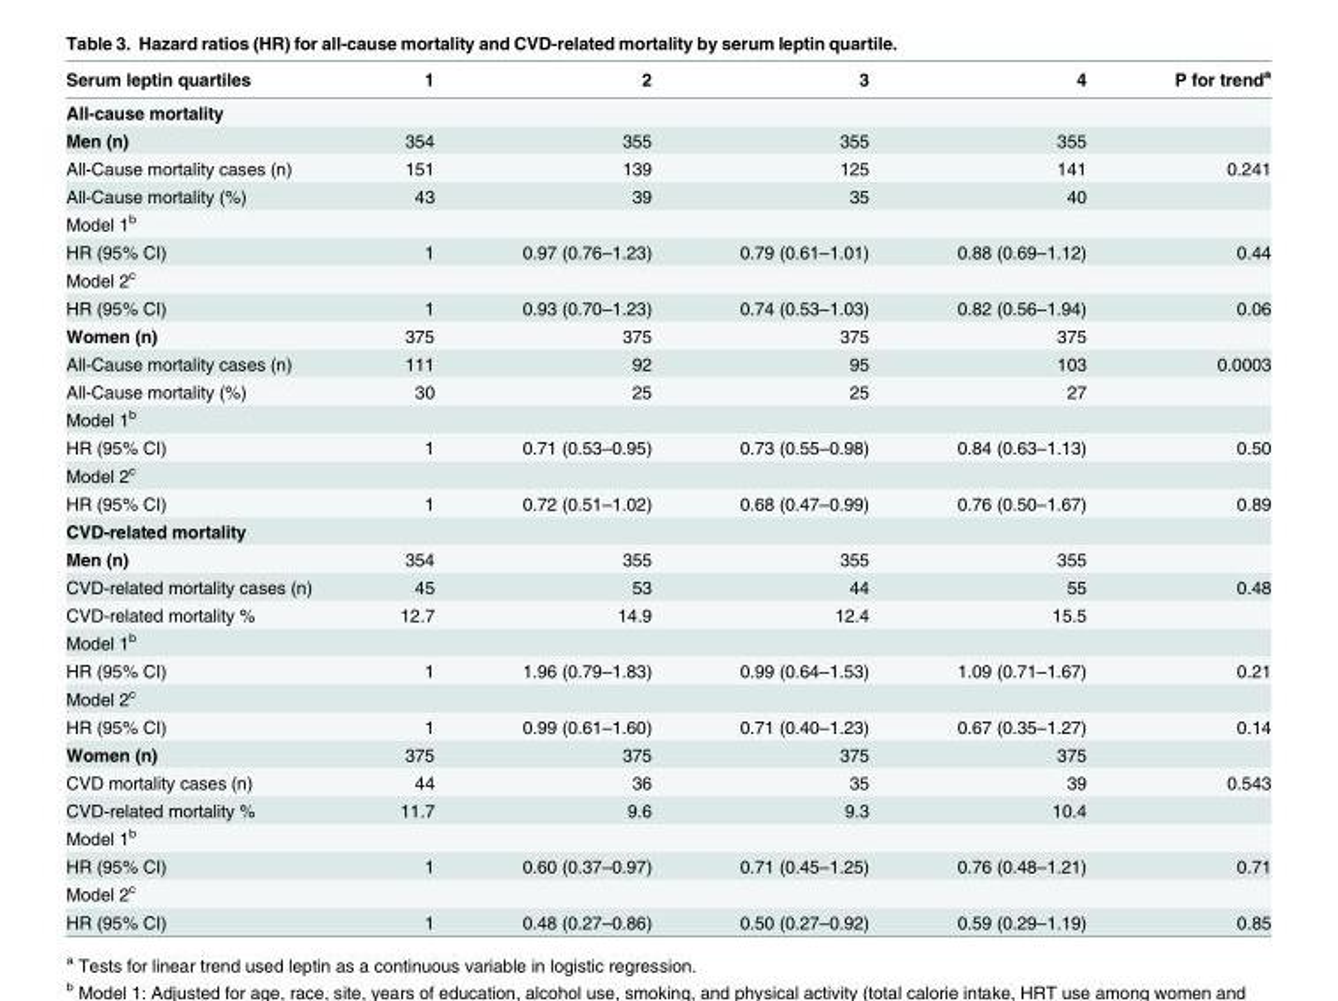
<table><thead><tr><td>Serum leptin quartiles</td><td>1</td><td>2</td><td>3</td><td>4</td><td>P for trend<sup>a</sup></td></tr></thead><tbody><tr><td colspan="6">All-cause mortality</td></tr><tr><td>Men (n)</td><td>354</td><td>355</td><td>355</td><td>355</td><td></td></tr><tr><td>All-Cause mortality cases (n)</td><td>151</td><td>139</td><td>125</td><td>141</td><td>0.241</td></tr><tr><td>All-Cause mortality (%)</td><td>43</td><td>39</td><td>35</td><td>40</td><td></td></tr><tr><td colspan="6">Model 1<sup>b</sup></td></tr><tr><td>HR (95% CI)</td><td>1</td><td>0.97 (0.76–1.23)</td><td>0.79 (0.61–1.01)</td><td>0.88 (0.69–1.12)</td><td>0.44</td></tr><tr><td colspan="6">Model 2<sup>c</sup></td></tr><tr><td>HR (95% CI)</td><td>1</td><td>0.93 (0.70–1.23)</td><td>0.74 (0.53–1.03)</td><td>0.82 (0.56–1.94)</td><td>0.06</td></tr><tr><td>Women (n)</td><td>375</td><td>375</td><td>375</td><td>375</td><td></td></tr><tr><td>All-Cause mortality cases (n)</td><td>111</td><td>92</td><td>95</td><td>103</td><td>0.0003</td></tr><tr><td>All-Cause mortality (%)</td><td>30</td><td>25</td><td>25</td><td>27</td><td></td></tr><tr><td colspan="6">Model 1<sup>b</sup></td></tr><tr><td>HR (95% CI)</td><td>1</td><td>0.71 (0.53–0.95)</td><td>0.73 (0.55–0.98)</td><td>0.84 (0.63–1.13)</td><td>0.50</td></tr><tr><td colspan="6">Model 2<sup>c</sup></td></tr><tr><td>HR (95% CI)</td><td>1</td><td>0.72 (0.51–1.02)</td><td>0.68 (0.47–0.99)</td><td>0.76 (0.50–1.67)</td><td>0.89</td></tr><tr><td colspan="6">CVD-related mortality</td></tr><tr><td>Men (n)</td><td>354</td><td>355</td><td>355</td><td>355</td><td></td></tr><tr><td>CVD-related mortality cases (n)</td><td>45</td><td>53</td><td>44</td><td>55</td><td>0.48</td></tr><tr><td>CVD-related mortality %</td><td>12.7</td><td>14.9</td><td>12.4</td><td>15.5</td><td></td></tr><tr><td colspan="6">Model 1<sup>b</sup></td></tr><tr><td>HR (95% CI)</td><td>1</td><td>1.96 (0.79–1.83)</td><td>0.99 (0.64–1.53)</td><td>1.09 (0.71–1.67)</td><td>0.21</td></tr><tr><td colspan="6">Model 2<sup>c</sup></td></tr><tr><td>HR (95% CI)</td><td>1</td><td>0.99 (0.61–1.60)</td><td>0.71 (0.40–1.23)</td><td>0.67 (0.35–1.27)</td><td>0.14</td></tr><tr><td>Women (n)</td><td>375</td><td>375</td><td>375</td><td>375</td><td></td></tr><tr><td>CVD mortality cases (n)</td><td>44</td><td>36</td><td>35</td><td>39</td><td>0.543</td></tr><tr><td>CVD-related mortality %</td><td>11.7</td><td>9.6</td><td>9.3</td><td>10.4</td><td></td></tr><tr><td colspan="6">Model 1<sup>b</sup></td></tr><tr><td>HR (95% CI)</td><td>1</td><td>0.60 (0.37–0.97)</td><td>0.71 (0.45–1.25)</td><td>0.76 (0.48–1.21)</td><td>0.71</td></tr><tr><td colspan="6">Model 2<sup>c</sup></td></tr><tr><td>HR (95% CI)</td><td>1</td><td>0.48 (0.27–0.86)</td><td>0.50 (0.27–0.92)</td><td>0.59 (0.29–1.19)</td><td>0.85</td></tr></tbody></table>